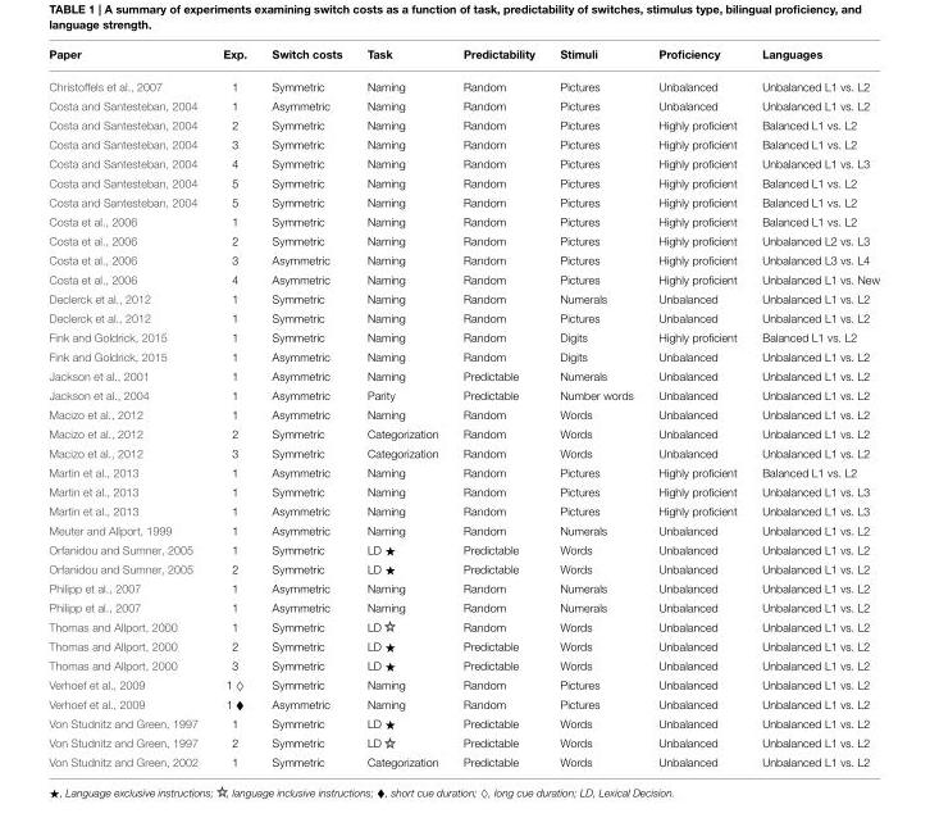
<table><thead><tr><td>Paper</td><td>Exp.</td><td>Switch costs</td><td>Task</td><td>Predictability</td><td>Stimuli</td><td>Proficiency</td><td>Languages</td></tr></thead><tbody><tr><td>Christoffels et al., 2007</td><td>1</td><td>Symmetric</td><td>Naming</td><td>Random</td><td>Pictures</td><td>Unbalanced</td><td>Unbalanced L1 vs. L2</td></tr><tr><td>Costa and Santesteban, 2004</td><td>1</td><td>Asymmetric</td><td>Naming</td><td>Random</td><td>Pictures</td><td>Unbalanced</td><td>Unbalanced L1 vs. L2</td></tr><tr><td>Costa and Santesteban, 2004</td><td>2</td><td>Symmetric</td><td>Naming</td><td>Random</td><td>Pictures</td><td>Highly proficient</td><td>Balanced L1 vs. L2</td></tr><tr><td>Costa and Santesteban, 2004</td><td>3</td><td>Symmetric</td><td>Naming</td><td>Random</td><td>Pictures</td><td>Highly proficient</td><td>Balanced L1 vs. L2</td></tr><tr><td>Costa and Santesteban, 2004</td><td>4</td><td>Symmetric</td><td>Naming</td><td>Random</td><td>Pictures</td><td>Highly proficient</td><td>Unbalanced L1 vs. L3</td></tr><tr><td>Costa and Santesteban, 2004</td><td>5</td><td>Symmetric</td><td>Naming</td><td>Random</td><td>Pictures</td><td>Highly proficient</td><td>Balanced L1 vs. L2</td></tr><tr><td>Costa and Santesteban, 2004</td><td>5</td><td>Symmetric</td><td>Naming</td><td>Random</td><td>Pictures</td><td>Highly proficient</td><td>Balanced L1 vs. L2</td></tr><tr><td>Costa et al., 2006</td><td>1</td><td>Symmetric</td><td>Naming</td><td>Random</td><td>Pictures</td><td>Highly proficient</td><td>Balanced L1 vs. L2</td></tr><tr><td>Costa et al., 2006</td><td>2</td><td>Symmetric</td><td>Naming</td><td>Random</td><td>Pictures</td><td>Highly proficient</td><td>Unbalanced L2 vs. L3</td></tr><tr><td>Costa et al., 2006</td><td>3</td><td>Asymmetric</td><td>Naming</td><td>Random</td><td>Pictures</td><td>Highly proficient</td><td>Unbalanced L3 vs. L4</td></tr><tr><td>Costa et al., 2006</td><td>4</td><td>Asymmetric</td><td>Naming</td><td>Random</td><td>Pictures</td><td>Highly proficient</td><td>Unbalanced L1 vs. New</td></tr><tr><td>Declerck et al., 2012</td><td>1</td><td>Symmetric</td><td>Naming</td><td>Random</td><td>Numerals</td><td>Unbalanced</td><td>Unbalanced L1 vs. L2</td></tr><tr><td>Declerck et al., 2012</td><td>1</td><td>Symmetric</td><td>Naming</td><td>Random</td><td>Pictures</td><td>Unbalanced</td><td>Unbalanced L1 vs. L2</td></tr><tr><td>Fink and Goldrick, 2015</td><td>1</td><td>Symmetric</td><td>Naming</td><td>Random</td><td>Digits</td><td>Highly proficient</td><td>Balanced L1 vs. L2</td></tr><tr><td>Fink and Goldrick, 2015</td><td>1</td><td>Asymmetric</td><td>Naming</td><td>Random</td><td>Digits</td><td>Unbalanced</td><td>Unbalanced L1 vs. L2</td></tr><tr><td>Jackson et al., 2001</td><td>1</td><td>Asymmetric</td><td>Naming</td><td>Predictable</td><td>Numerals</td><td>Unbalanced</td><td>Unbalanced L1 vs. L2</td></tr><tr><td>Jackson et al., 2004</td><td>1</td><td>Asymmetric</td><td>Parity</td><td>Predictable</td><td>Number words</td><td>Unbalanced</td><td>Unbalanced L1 vs. L2</td></tr><tr><td>Macizo et al., 2012</td><td>1</td><td>Asymmetric</td><td>Naming</td><td>Random</td><td>Words</td><td>Unbalanced</td><td>Unbalanced L1 vs. L2</td></tr><tr><td>Macizo et al., 2012</td><td>2</td><td>Symmetric</td><td>Categorization</td><td>Random</td><td>Words</td><td>Unbalanced</td><td>Unbalanced L1 vs. L2</td></tr><tr><td>Macizo et al., 2012</td><td>3</td><td>Symmetric</td><td>Categorization</td><td>Random</td><td>Words</td><td>Unbalanced</td><td>Unbalanced L1 vs. L2</td></tr><tr><td>Martin et al., 2013</td><td>1</td><td>Asymmetric</td><td>Naming</td><td>Random</td><td>Pictures</td><td>Highly proficient</td><td>Balanced L1 vs. L2</td></tr><tr><td>Martin et al., 2013</td><td>1</td><td>Symmetric</td><td>Naming</td><td>Random</td><td>Pictures</td><td>Highly proficient</td><td>Unbalanced L1 vs. L3</td></tr><tr><td>Martin et al., 2013</td><td>1</td><td>Asymmetric</td><td>Naming</td><td>Random</td><td>Pictures</td><td>Highly proficient</td><td>Unbalanced L1 vs. L3</td></tr><tr><td>Meuter and Allport, 1999</td><td>1</td><td>Asymmetric</td><td>Naming</td><td>Random</td><td>Numerals</td><td>Unbalanced</td><td>Unbalanced L1 vs. L2</td></tr><tr><td>Orfanidou and Sumner, 2005</td><td>1</td><td>Symmetric</td><td>LD ⋆</td><td>Predictable</td><td>Words</td><td>Unbalanced</td><td>Unbalanced L1 vs. L2</td></tr><tr><td>Orfanidou and Sumner, 2005</td><td>2</td><td>Symmetric</td><td>LD ⋆</td><td>Predictable</td><td>Words</td><td>Unbalanced</td><td>Unbalanced L1 vs. L2</td></tr><tr><td>Philipp et al., 2007</td><td>1</td><td>Asymmetric</td><td>Naming</td><td>Random</td><td>Numerals</td><td>Unbalanced</td><td>Unbalanced L1 vs. L2</td></tr><tr><td>Philipp et al., 2007</td><td>1</td><td>Asymmetric</td><td>Naming</td><td>Random</td><td>Numerals</td><td>Unbalanced</td><td>Unbalanced L1 vs. L2</td></tr><tr><td>Thomas and Allport, 2000</td><td>1</td><td>Symmetric</td><td>LD</td><td>Random</td><td>Words</td><td>Unbalanced</td><td>Unbalanced L1 vs. L2</td></tr><tr><td>Thomas and Allport, 2000</td><td>2</td><td>Symmetric</td><td>LD ⋆</td><td>Predictable</td><td>Words</td><td>Unbalanced</td><td>Unbalanced L1 vs. L2</td></tr><tr><td>Thomas and Allport, 2000</td><td>3</td><td>Symmetric</td><td>LD ⋆</td><td>Predictable</td><td>Words</td><td>Unbalanced</td><td>Unbalanced L1 vs. L2</td></tr><tr><td>Verhoef et al., 2009</td><td>1 ♦</td><td>Symmetric</td><td>Naming</td><td>Random</td><td>Pictures</td><td>Unbalanced</td><td>Unbalanced L1 vs. L2</td></tr><tr><td>Verhoef et al., 2009</td><td>1 ♦</td><td>Asymmetric</td><td>Naming</td><td>Random</td><td>Pictures</td><td>Unbalanced</td><td>Unbalanced L1 vs. L2</td></tr><tr><td>Von Studnitz and Green, 1997</td><td>1</td><td>Symmetric</td><td>LD ⋆</td><td>Predictable</td><td>Words</td><td>Unbalanced</td><td>Unbalanced L1 vs. L2</td></tr><tr><td>Von Studnitz and Green, 1997</td><td>2</td><td>Symmetric</td><td>LD</td><td>Predictable</td><td>Words</td><td>Unbalanced</td><td>Unbalanced L1 vs. L2</td></tr><tr><td>Von Studnitz and Green, 2002</td><td>1</td><td>Symmetric</td><td>Categorization</td><td>Predictable</td><td>Words</td><td>Unbalanced</td><td>Unbalanced L1 vs. L2</td></tr></tbody></table>